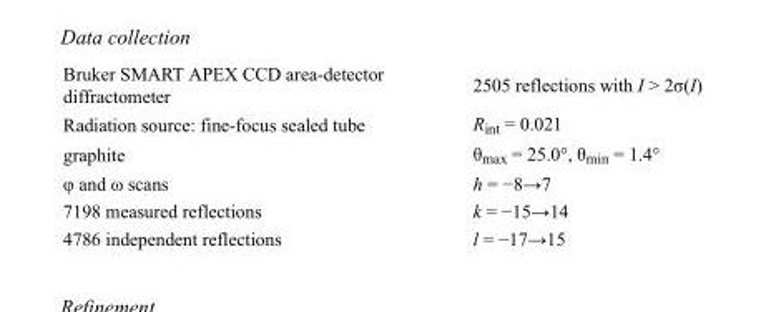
<table><tbody><tr><td>Bruker SMART APEX CCD area-detector diffractometer</td><td>2505 reflections with I &gt; 2σ(I)</td></tr><tr><td>Radiation source: fine-focus sealed tube</td><td>R<sub>int</sub> = 0.021</td></tr><tr><td>graphite</td><td>θ<sub>max</sub> = 25.0°, θ<sub>min</sub> = 1.4°</td></tr><tr><td>φ and ω scans</td><td>h = −8→7</td></tr><tr><td>7198 measured reflections</td><td>k = −15→14</td></tr><tr><td>4786 independent reflections</td><td>l = −17→15</td></tr></tbody></table>